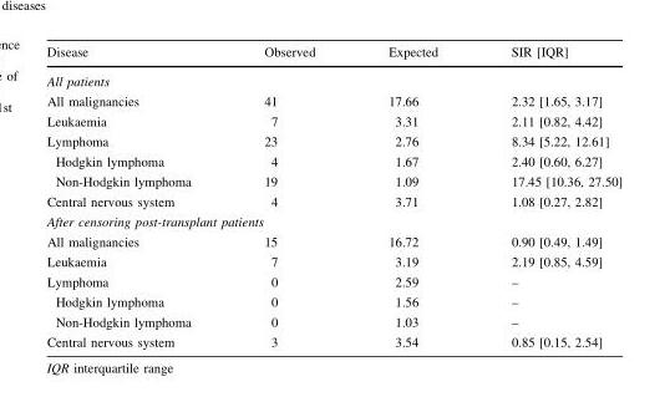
<table><thead><tr><td>Disease</td><td>Observed</td><td>Expected</td><td>SIR [IQR]</td></tr></thead><tbody><tr><td colspan="4">All patients</td></tr><tr><td>All malignancies</td><td>41</td><td>17.66</td><td>2.32 [1.65, 3.17]</td></tr><tr><td>Leukaemia</td><td>7</td><td>3.31</td><td>2.11 [0.82, 4.42]</td></tr><tr><td>Lymphoma</td><td>23</td><td>2.76</td><td>8.34 [5.22, 12.61]</td></tr><tr><td>Hodgkin lymphoma</td><td>4</td><td>1.67</td><td>2.40 [0.60, 6.27]</td></tr><tr><td>Non-Hodgkin lymphoma</td><td>19</td><td>1.09</td><td>17.45 [10.36, 27.50]</td></tr><tr><td>Central nervous system</td><td>4</td><td>3.71</td><td>1.08 [0.27, 2.82]</td></tr><tr><td colspan="4">After censoring post-transplant patients</td></tr><tr><td>All malignancies</td><td>15</td><td>16.72</td><td>0.90 [0.49, 1.49]</td></tr><tr><td>Leukaemia</td><td>7</td><td>3.19</td><td>2.19 [0.85, 4.59]</td></tr><tr><td>Lymphoma</td><td>0</td><td>2.59</td><td>–</td></tr><tr><td>Hodgkin lymphoma</td><td>0</td><td>1.56</td><td>–</td></tr><tr><td>Non-Hodgkin lymphoma</td><td>0</td><td>1.03</td><td>–</td></tr><tr><td>Central nervous system</td><td>3</td><td>3.54</td><td>0.85 [0.15, 2.54]</td></tr></tbody></table>